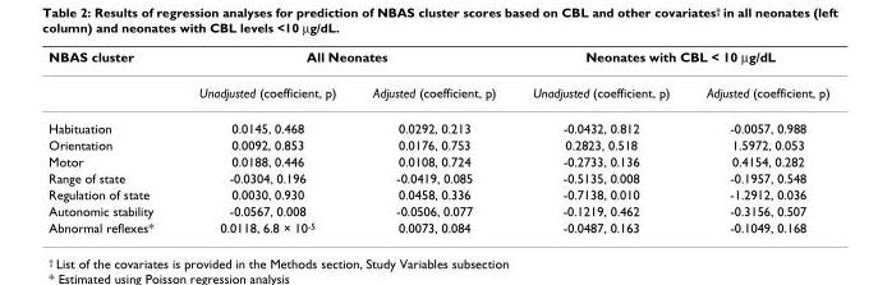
<table><thead><tr><td rowspan="2">NBAS cluster</td><td colspan="2">All Neonates</td><td colspan="2">Neonates with CBL &lt; 10 μg/dL</td></tr><tr><td>Unadjusted (coefficient, p)</td><td>Adjusted (coefficient, p)</td><td>Unadjusted (coefficient, p)</td><td>Adjusted (coefficient, p)</td></tr></thead><tbody><tr><td>Habituation</td><td>0.0145, 0.468</td><td>0.0292, 0.213</td><td>-0.0432, 0.812</td><td>-0.0057, 0.988</td></tr><tr><td>Orientation</td><td>0.0092, 0.853</td><td>0.0176, 0.753</td><td>0.2823, 0.518</td><td>1.5972, 0.053</td></tr><tr><td>Motor</td><td>0.0188, 0.446</td><td>0.0108, 0.724</td><td>-0.2733, 0.136</td><td>0.4154, 0.282</td></tr><tr><td>Range of state</td><td>-0.0304, 0.196</td><td>-0.0419, 0.085</td><td>-0.5135, 0.008</td><td>-0.1957, 0.548</td></tr><tr><td>Regulation of state</td><td>0.0030, 0.930</td><td>0.0458, 0.336</td><td>-0.7138, 0.010</td><td>-1.2912, 0.036</td></tr><tr><td>Autonomic stability</td><td>-0.0567, 0.008</td><td>-0.0506, 0.077</td><td>-0.1219, 0.462</td><td>-0.3156, 0.507</td></tr><tr><td>Abnormal reflexes*</td><td>0.0118, 6.8 × 10<sup>-5</sup></td><td>0.0073, 0.084</td><td>-0.0487, 0.163</td><td>-0.1049, 0.168</td></tr></tbody></table>